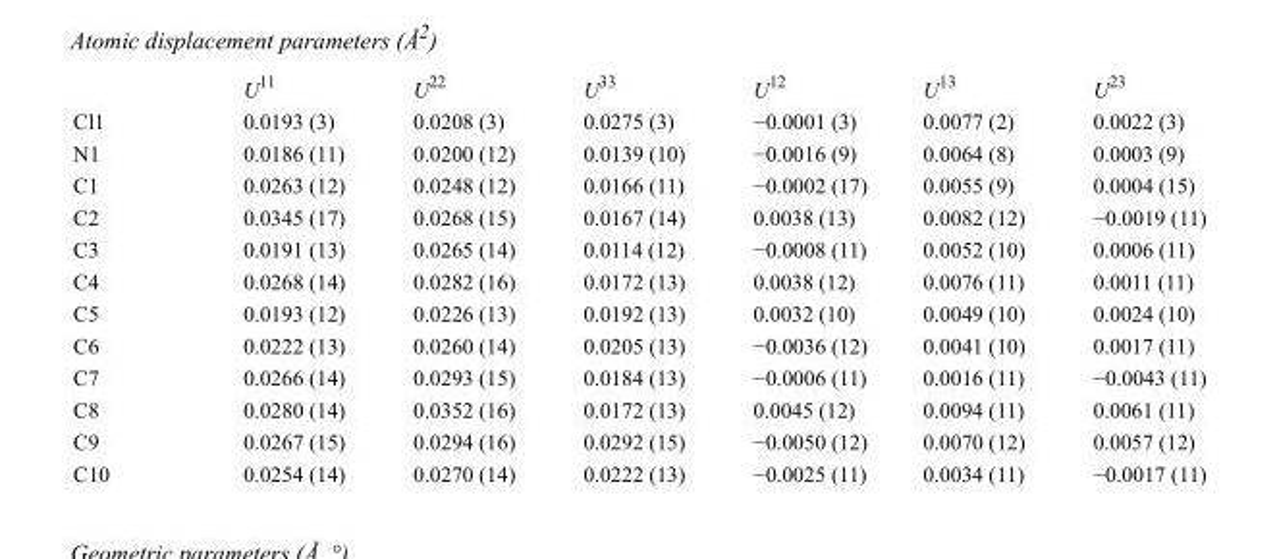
<table><thead><tr><td></td><td>U<sup>11</sup></td><td>U<sup>22</sup></td><td>U<sup>33</sup></td><td>U<sup>12</sup></td><td>U<sup>13</sup></td><td>U<sup>23</sup></td></tr></thead><tbody><tr><td>Cl1</td><td>0.0193 (3)</td><td>0.0208 (3)</td><td>0.0275 (3)</td><td>−0.0001 (3)</td><td>0.0077 (2)</td><td>0.0022 (3)</td></tr><tr><td>N1</td><td>0.0186 (11)</td><td>0.0200 (12)</td><td>0.0139 (10)</td><td>−0.0016 (9)</td><td>0.0064 (8)</td><td>0.0003 (9)</td></tr><tr><td>C1</td><td>0.0263 (12)</td><td>0.0248 (12)</td><td>0.0166 (11)</td><td>−0.0002 (17)</td><td>0.0055 (9)</td><td>0.0004 (15)</td></tr><tr><td>C2</td><td>0.0345 (17)</td><td>0.0268 (15)</td><td>0.0167 (14)</td><td>0.0038 (13)</td><td>0.0082 (12)</td><td>−0.0019 (11)</td></tr><tr><td>C3</td><td>0.0191 (13)</td><td>0.0265 (14)</td><td>0.0114 (12)</td><td>−0.0008 (11)</td><td>0.0052 (10)</td><td>0.0006 (11)</td></tr><tr><td>C4</td><td>0.0268 (14)</td><td>0.0282 (16)</td><td>0.0172 (13)</td><td>0.0038 (12)</td><td>0.0076 (11)</td><td>0.0011 (11)</td></tr><tr><td>C5</td><td>0.0193 (12)</td><td>0.0226 (13)</td><td>0.0192 (13)</td><td>0.0032 (10)</td><td>0.0049 (10)</td><td>0.0024 (10)</td></tr><tr><td>C6</td><td>0.0222 (13)</td><td>0.0260 (14)</td><td>0.0205 (13)</td><td>−0.0036 (12)</td><td>0.0041 (10)</td><td>0.0017 (11)</td></tr><tr><td>C7</td><td>0.0266 (14)</td><td>0.0293 (15)</td><td>0.0184 (13)</td><td>−0.0006 (11)</td><td>0.0016 (11)</td><td>−0.0043 (11)</td></tr><tr><td>C8</td><td>0.0280 (14)</td><td>0.0352 (16)</td><td>0.0172 (13)</td><td>0.0045 (12)</td><td>0.0094 (11)</td><td>0.0061 (11)</td></tr><tr><td>C9</td><td>0.0267 (15)</td><td>0.0294 (16)</td><td>0.0292 (15)</td><td>−0.0050 (12)</td><td>0.0070 (12)</td><td>0.0057 (12)</td></tr><tr><td>C10</td><td>0.0254 (14)</td><td>0.0270 (14)</td><td>0.0222 (13)</td><td>−0.0025 (11)</td><td>0.0034 (11)</td><td>−0.0017 (11)</td></tr></tbody></table>